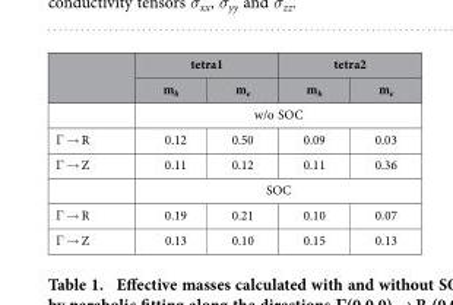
<table><thead><tr><td rowspan="2"></td><td colspan="2">tetra1</td><td colspan="2">tetra2</td></tr><tr><td>m<sub>h</sub></td><td>m<sub>e</sub></td><td>m<sub>h</sub></td><td>m<sub>e</sub></td></tr></thead><tbody><tr><td></td><td colspan="4">w/o SOC</td></tr><tr><td>Γ → R</td><td>0.12</td><td>0.50</td><td>0.09</td><td>0.03</td></tr><tr><td rowspan="2">Γ → Z</td><td>0.11</td><td>0.12</td><td>0.11</td><td>0.36</td></tr><tr><td colspan="4">SOC</td></tr><tr><td>Γ → R</td><td>0.19</td><td>0.21</td><td>0.10</td><td>0.07</td></tr><tr><td>Γ → Z</td><td>0.13</td><td>0.10</td><td>0.15</td><td>0.13</td></tr></tbody></table>